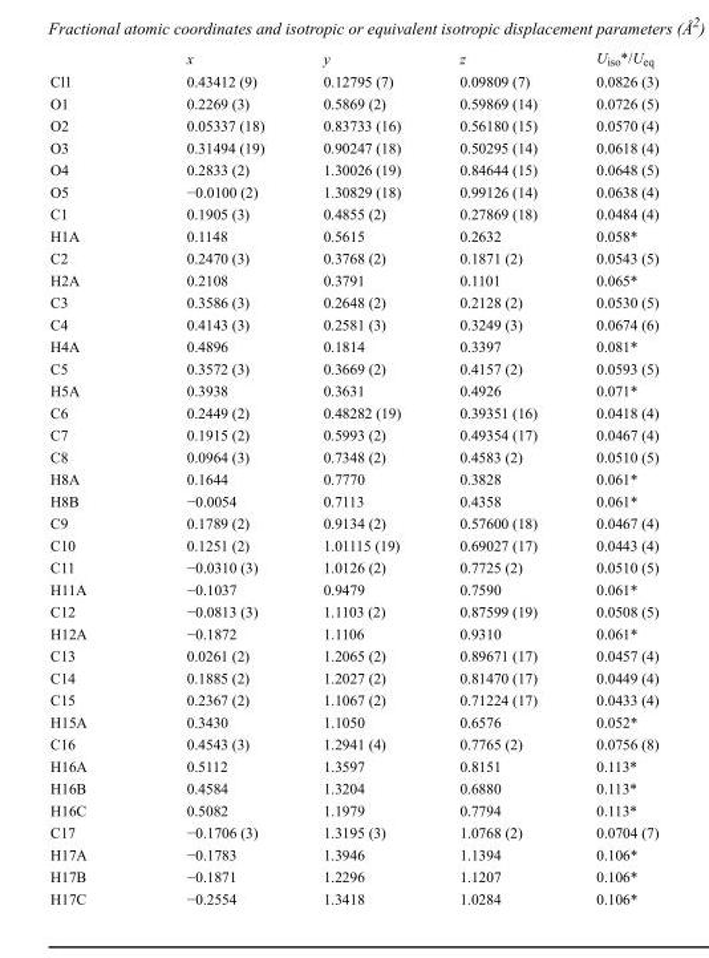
<table><thead><tr><td></td><td>x</td><td>y</td><td>z</td><td>U<sub>iso</sub>*/U<sub>eq</sub></td></tr></thead><tbody><tr><td>Cl1</td><td>0.43412 (9)</td><td>0.12795 (7)</td><td>0.09809 (7)</td><td>0.0826 (3)</td></tr><tr><td>O1</td><td>0.2269 (3)</td><td>0.5869 (2)</td><td>0.59869 (14)</td><td>0.0726 (5)</td></tr><tr><td>O2</td><td>0.05337 (18)</td><td>0.83733 (16)</td><td>0.56180 (15)</td><td>0.0570 (4)</td></tr><tr><td>O3</td><td>0.31494 (19)</td><td>0.90247 (18)</td><td>0.50295 (14)</td><td>0.0618 (4)</td></tr><tr><td>O4</td><td>0.2833 (2)</td><td>1.30026 (19)</td><td>0.84644 (15)</td><td>0.0648 (5)</td></tr><tr><td>O5</td><td>−0.0100 (2)</td><td>1.30829 (18)</td><td>0.99126 (14)</td><td>0.0638 (4)</td></tr><tr><td>C1</td><td>0.1905 (3)</td><td>0.4855 (2)</td><td>0.27869 (18)</td><td>0.0484 (4)</td></tr><tr><td>H1A</td><td>0.1148</td><td>0.5615</td><td>0.2632</td><td>0.058*</td></tr><tr><td>C2</td><td>0.2470 (3)</td><td>0.3768 (2)</td><td>0.1871 (2)</td><td>0.0543 (5)</td></tr><tr><td>H2A</td><td>0.2108</td><td>0.3791</td><td>0.1101</td><td>0.065*</td></tr><tr><td>C3</td><td>0.3586 (3)</td><td>0.2648 (2)</td><td>0.2128 (2)</td><td>0.0530 (5)</td></tr><tr><td>C4</td><td>0.4143 (3)</td><td>0.2581 (3)</td><td>0.3249 (3)</td><td>0.0674 (6)</td></tr><tr><td>H4A</td><td>0.4896</td><td>0.1814</td><td>0.3397</td><td>0.081*</td></tr><tr><td>C5</td><td>0.3572 (3)</td><td>0.3669 (2)</td><td>0.4157 (2)</td><td>0.0593 (5)</td></tr><tr><td>H5A</td><td>0.3938</td><td>0.3631</td><td>0.4926</td><td>0.071*</td></tr><tr><td>C6</td><td>0.2449 (2)</td><td>0.48282 (19)</td><td>0.39351 (16)</td><td>0.0418 (4)</td></tr><tr><td>C7</td><td>0.1915 (2)</td><td>0.5993 (2)</td><td>0.49354 (17)</td><td>0.0467 (4)</td></tr><tr><td>C8</td><td>0.0964 (3)</td><td>0.7348 (2)</td><td>0.4583 (2)</td><td>0.0510 (5)</td></tr><tr><td>H8A</td><td>0.1644</td><td>0.7770</td><td>0.3828</td><td>0.061*</td></tr><tr><td>H8B</td><td>−0.0054</td><td>0.7113</td><td>0.4358</td><td>0.061*</td></tr><tr><td>C9</td><td>0.1789 (2)</td><td>0.9134 (2)</td><td>0.57600 (18)</td><td>0.0467 (4)</td></tr><tr><td>C10</td><td>0.1251 (2)</td><td>1.01115 (19)</td><td>0.69027 (17)</td><td>0.0443 (4)</td></tr><tr><td>C11</td><td>−0.0310 (3)</td><td>1.0126 (2)</td><td>0.7725 (2)</td><td>0.0510 (5)</td></tr><tr><td>H11A</td><td>−0.1037</td><td>0.9479</td><td>0.7590</td><td>0.061*</td></tr><tr><td>C12</td><td>−0.0813 (3)</td><td>1.1103 (2)</td><td>0.87599 (19)</td><td>0.0508 (5)</td></tr><tr><td>H12A</td><td>−0.1872</td><td>1.1106</td><td>0.9310</td><td>0.061*</td></tr><tr><td>C13</td><td>0.0261 (2)</td><td>1.2065 (2)</td><td>0.89671 (17)</td><td>0.0457 (4)</td></tr><tr><td>C14</td><td>0.1885 (2)</td><td>1.2027 (2)</td><td>0.81470 (17)</td><td>0.0449 (4)</td></tr><tr><td>C15</td><td>0.2367 (2)</td><td>1.1067 (2)</td><td>0.71224 (17)</td><td>0.0433 (4)</td></tr><tr><td>H15A</td><td>0.3430</td><td>1.1050</td><td>0.6576</td><td>0.052*</td></tr><tr><td>C16</td><td>0.4543 (3)</td><td>1.2941 (4)</td><td>0.7765 (2)</td><td>0.0756 (8)</td></tr><tr><td>H16A</td><td>0.5112</td><td>1.3597</td><td>0.8151</td><td>0.113*</td></tr><tr><td>H16B</td><td>0.4584</td><td>1.3204</td><td>0.6880</td><td>0.113*</td></tr><tr><td>H16C</td><td>0.5082</td><td>1.1979</td><td>0.7794</td><td>0.113*</td></tr><tr><td>C17</td><td>−0.1706 (3)</td><td>1.3195 (3)</td><td>1.0768 (2)</td><td>0.0704 (7)</td></tr><tr><td>H17A</td><td>−0.1783</td><td>1.3946</td><td>1.1394</td><td>0.106*</td></tr><tr><td>H17B</td><td>−0.1871</td><td>1.2296</td><td>1.1207</td><td>0.106*</td></tr><tr><td>H17C</td><td>−0.2554</td><td>1.3418</td><td>1.0284</td><td>0.106*</td></tr></tbody></table>